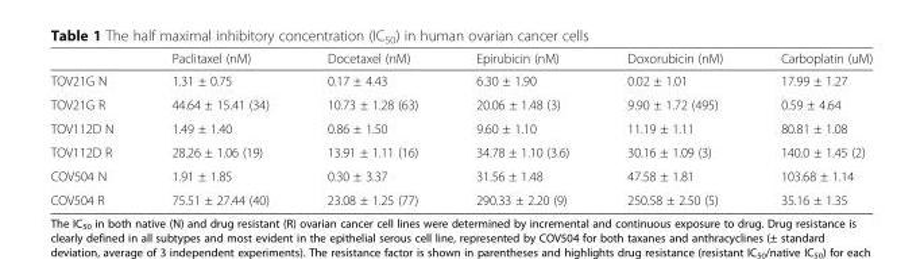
<table><thead><tr><td></td><td>Paclitaxel (nM)</td><td>Docetaxel (nM)</td><td>Epirubicin (nM)</td><td>Doxorubicin (nM)</td><td>Carboplatin (uM)</td></tr></thead><tbody><tr><td>TOV21G N</td><td>1.31 ± 0.75</td><td>0.17 ± 4.43</td><td>6.30 ± 1.90</td><td>0.02 ± 1.01</td><td>17.99 ± 1.27</td></tr><tr><td>TOV21G R</td><td>44.64 ± 15.41 (34)</td><td>10.73 ± 1.28 (63)</td><td>20.06 ± 1.48 (3)</td><td>9.90 ± 1.72 (495)</td><td>0.59 ± 4.64</td></tr><tr><td>TOV112D N</td><td>1.49 ± 1.40</td><td>0.86 ± 1.50</td><td>9.60 ± 1.10</td><td>11.19 ± 1.11</td><td>80.81 ± 1.08</td></tr><tr><td>TOV112D R</td><td>28.26 ± 1.06 (19)</td><td>13.91 ± 1.11 (16)</td><td>34.78 ± 1.10 (3.6)</td><td>30.16 ± 1.09 (3)</td><td>140.0 ± 1.45 (2)</td></tr><tr><td>COV504 N</td><td>1.91 ± 1.85</td><td>0.30 ± 3.37</td><td>31.56 ± 1.48</td><td>47.58 ± 1.81</td><td>103.68 ± 1.14</td></tr><tr><td>COV504 R</td><td>75.51 ± 27.44 (40)</td><td>23.08 ± 1.25 (77)</td><td>290.33 ± 2.20 (9)</td><td>250.58 ± 2.50 (5)</td><td>35.16 ± 1.35</td></tr></tbody></table>